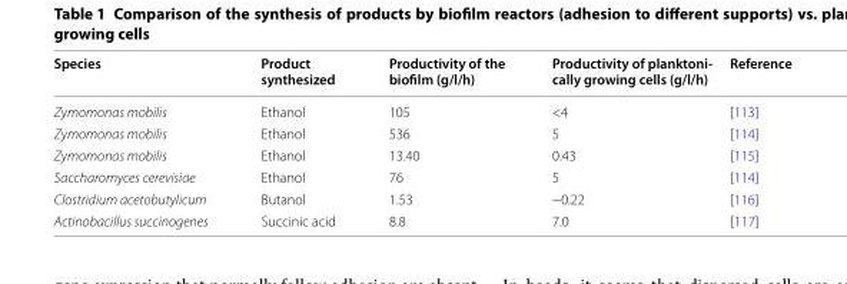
<table><thead><tr><td>Species</td><td>Product synthesized</td><td>Productivity of the biofilm (g/l/h)</td><td>Productivity of planktoni- cally growing cells (g/l/h)</td><td>Reference</td></tr></thead><tbody><tr><td>Zymomonas mobilis</td><td>Ethanol</td><td>105</td><td>&lt;4</td><td>[113]</td></tr><tr><td>Zymomonas mobilis</td><td>Ethanol</td><td>536</td><td>5</td><td>[114]</td></tr><tr><td>Zymomonas mobilis</td><td>Ethanol</td><td>13.40</td><td>0.43</td><td>[115]</td></tr><tr><td>Saccharomyces cerevisiae</td><td>Ethanol</td><td>76</td><td>5</td><td>[114]</td></tr><tr><td>Clostridium acetobutylicum</td><td>Butanol</td><td>1.53</td><td>~0.22</td><td>[116]</td></tr><tr><td>Actinobacillus succinogenes</td><td>Succinic acid</td><td>8.8</td><td>7.0</td><td>[117]</td></tr></tbody></table>